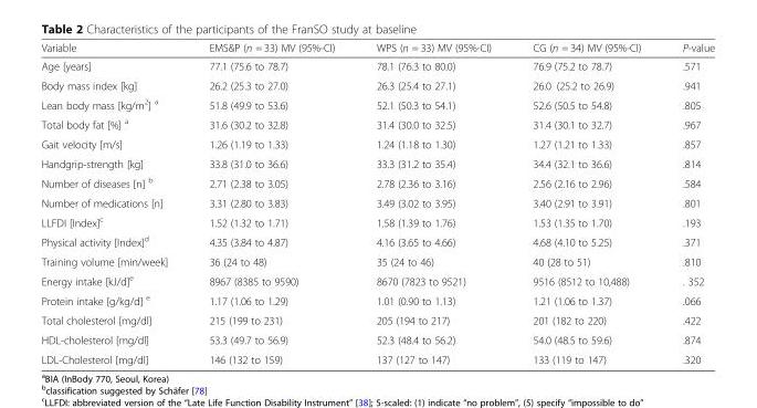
<table><thead><tr><td>Variable</td><td>EMS&amp;P (n = 33) MV (95%-CI)</td><td>WPS (n = 33) MV (95%-CI)</td><td>CG (n = 34) MV (95%-CI)</td><td>P-value</td></tr></thead><tbody><tr><td>Age [years]</td><td>77.1 (75.6 to 78.7)</td><td>78.1 (76.3 to 80.0)</td><td>76.9 (75.2 to 78.7)</td><td>.571</td></tr><tr><td>Body mass index [kg]</td><td>26.2 (25.3 to 27.0)</td><td>26.3 (25.4 to 27.1)</td><td>26.0 (25.2 to 26.9)</td><td>.941</td></tr><tr><td>Lean body mass [kg/m<sup>2</sup>] <sup>a</sup></td><td>51.8 (49.9 to 53.6)</td><td>52.1 (50.3 to 54.1)</td><td>52.6 (50.5 to 54.8)</td><td>.805</td></tr><tr><td>Total body fat [%] <sup>a</sup></td><td>31.6 (30.2 to 32.8)</td><td>31.4 (30.0 to 32.5)</td><td>31.4 (30.1 to 32.7)</td><td>.967</td></tr><tr><td>Gait velocity [m/s]</td><td>1.26 (1.19 to 1.33)</td><td>1.24 (1.18 to 1.30)</td><td>1.27 (1.21 to 1.33)</td><td>.857</td></tr><tr><td>Handgrip-strength [kg]</td><td>33.8 (31.0 to 36.6)</td><td>33.3 (31.2 to 35.4)</td><td>34.4 (32.1 to 36.6)</td><td>.814</td></tr><tr><td>Number of diseases [n] <sup>b</sup></td><td>2.71 (2.38 to 3.05)</td><td>2.78 (2.36 to 3.16)</td><td>2.56 (2.16 to 2.96)</td><td>.584</td></tr><tr><td>Number of medications [n]</td><td>3.31 (2.80 to 3.83)</td><td>3.49 (3.02 to 3.95)</td><td>3.40 (2.91 to 3.91)</td><td>.801</td></tr><tr><td>LLFDI [Index]<sup>c</sup></td><td>1.52 (1.32 to 1.71)</td><td>1.58 (1.39 to 1.76)</td><td>1.53 (1.35 to 1.70)</td><td>.193</td></tr><tr><td>Physical activity [Index]<sup>d</sup></td><td>4.35 (3.84 to 4.87)</td><td>4.16 (3.65 to 4.66)</td><td>4.68 (4.10 to 5.25)</td><td>.371</td></tr><tr><td>Training volume [min/week]</td><td>36 (24 to 48)</td><td>35 (24 to 46)</td><td>40 (28 to 51)</td><td>.810</td></tr><tr><td>Energy intake [kJ/d]<sup>e</sup></td><td>8967 (8385 to 9590)</td><td>8670 (7823 to 9521)</td><td>9516 (8512 to 10,488)</td><td>. 352</td></tr><tr><td>Protein intake [g/kg/d] <sup>e</sup></td><td>1.17 (1.06 to 1.29)</td><td>1.01 (0.90 to 1.13)</td><td>1.21 (1.06 to 1.37)</td><td>.066</td></tr><tr><td>Total cholesterol [mg/dl]</td><td>215 (199 to 231)</td><td>205 (194 to 217)</td><td>201 (182 to 220)</td><td>.422</td></tr><tr><td>HDL-cholesterol [mg/dl]</td><td>53.3 (49.7 to 56.9)</td><td>52.3 (48.4 to 56.2)</td><td>54.0 (48.5 to 59.6)</td><td>.874</td></tr><tr><td>LDL-Cholesterol [mg/dl]</td><td>146 (132 to 159)</td><td>137 (127 to 147)</td><td>133 (119 to 147)</td><td>.320</td></tr></tbody></table>